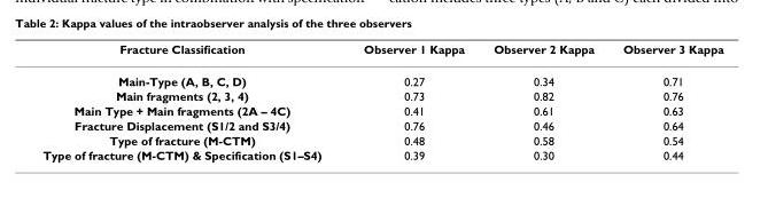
<table><thead><tr><td>Fracture Classification</td><td>Observer 1 Kappa</td><td>Observer 2 Kappa</td><td>Observer 3 Kappa</td></tr></thead><tbody><tr><td>Main-Type (A, B, C, D)</td><td>0.27</td><td>0.34</td><td>0.71</td></tr><tr><td>Main fragments (2, 3, 4)</td><td>0.73</td><td>0.82</td><td>0.76</td></tr><tr><td>Main Type + Main fragments (2A – 4C)</td><td>0.41</td><td>0.61</td><td>0.63</td></tr><tr><td>Fracture Displacement (S1/2 and S3/4)</td><td>0.76</td><td>0.46</td><td>0.64</td></tr><tr><td>Type of fracture (M-CTM)</td><td>0.48</td><td>0.58</td><td>0.54</td></tr><tr><td>Type of fracture (M-CTM) &amp; Specification (S1–S4)</td><td>0.39</td><td>0.30</td><td>0.44</td></tr></tbody></table>